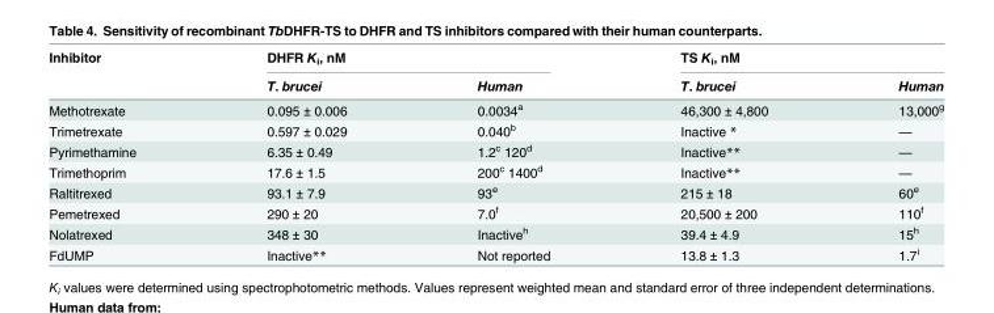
<table><thead><tr><td rowspan="2">Inhibitor</td><td colspan="2">DHFR K<sub>i</sub>, nM</td><td colspan="2">TS K<sub>i</sub>, nM</td></tr><tr><td>T. brucei</td><td>Human</td><td>T. brucei</td><td>Human</td></tr></thead><tbody><tr><td>Methotrexate</td><td>0.095 ± 0.006</td><td>0.0034<sup>a</sup></td><td>46,300 ± 4,800</td><td>13,000<sup>g</sup></td></tr><tr><td>Trimetrexate</td><td>0.597 ± 0.029</td><td>0.040<sup>b</sup></td><td>Inactive *</td><td>—</td></tr><tr><td>Pyrimethamine</td><td>6.35 ± 0.49</td><td>1.2<sup>c</sup> 120<sup>d</sup></td><td>Inactive**</td><td>—</td></tr><tr><td>Trimethoprim</td><td>17.6 ± 1.5</td><td>200<sup>c</sup> 1400<sup>d</sup></td><td>Inactive**</td><td>—</td></tr><tr><td>Raltitrexed</td><td>93.1 ± 7.9</td><td>93<sup>e</sup></td><td>215 ± 18</td><td>60<sup>e</sup></td></tr><tr><td>Pemetrexed</td><td>290 ± 20</td><td>7.0<sup>f</sup></td><td>20,500 ± 200</td><td>110<sup>f</sup></td></tr><tr><td>Nolatrexed</td><td>348 ± 30</td><td>Inactive<sup>h</sup></td><td>39.4 ± 4.9</td><td>15<sup>h</sup></td></tr><tr><td>FdUMP</td><td>Inactive**</td><td>Not reported</td><td>13.8 ± 1.3</td><td>1.7<sup>i</sup></td></tr></tbody></table>